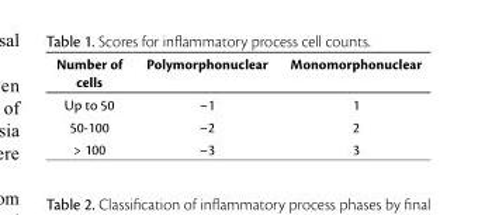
<table><thead><tr><td>Number of cells</td><td>Polymorphonuclear</td><td>Monomorphonuclear</td></tr></thead><tbody><tr><td>Up to 50</td><td>–1</td><td>1</td></tr><tr><td>50-100</td><td>–2</td><td>2</td></tr><tr><td>&gt; 100</td><td>–3</td><td>3</td></tr></tbody></table>